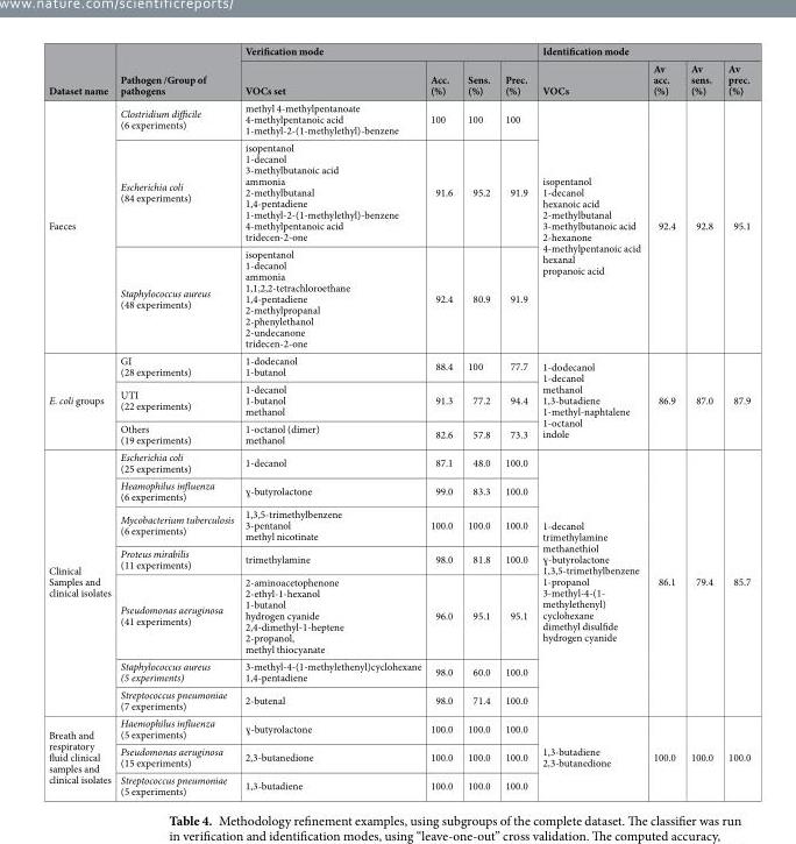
<table><thead><tr><td rowspan="2">Dataset name</td><td rowspan="2">Pathogen /Group of pathogens</td><td colspan="4">Verification mode</td><td colspan="4">Identification mode</td></tr><tr><td>VOCs set</td><td>Acc. (%)</td><td>Sens. (%)</td><td>Prec. (%)</td><td>VOCs</td><td>Av acc. (%)</td><td>Av sens. (%)</td><td>Av prec. (%)</td></tr></thead><tbody><tr><td rowspan="3">Faeces</td><td>Clostridium difficile (6 experiments)</td><td>methyl 4-methylpentanoate 4-methylpentanoic acid 1-methyl-2-(1-methylethyl)-benzene</td><td>100</td><td>100</td><td>100</td><td rowspan="3">isopentanol 1-decanol hexanoic acid 2-methylbutanal 3-methylbutanoic acid 2-hexanone 4-methylpentanoic acid hexanal propanoic acid</td><td rowspan="3">92.4</td><td rowspan="3">92.8</td><td rowspan="3">95.1</td></tr><tr><td>Escherichia coli (84 experiments)</td><td>isopentanol 1-decanol 3-methylbutanoic acid ammonia 2-methylbutanal 1,4-pentadiene 1-methyl-2-(1-methylethyl)-benzene 4-methylpentanoic acid tridecen-2-one</td><td>91.6</td><td>95.2</td><td>91.9</td></tr><tr><td>Staphylococcus aureus (48 experiments)</td><td>isopentanol 1-decanol ammonia 1,1,2,2-tetrachloroethane 1,4-pentadiene 2-methylpropanal 2-phenylethanol 2-undecanone tridecen-2-one</td><td>92.4</td><td>80.9</td><td>91.9</td></tr><tr><td rowspan="3">E. coli groups</td><td>GI (28 experiments)</td><td>1-dodecanol 1-butanol</td><td>88.4</td><td>100</td><td>77.7</td><td rowspan="3">1-dodecanol 1-decanol methanol 1,3-butadiene 1-methyl-naphtalene 1-octanol indole</td><td rowspan="3">86.9</td><td rowspan="3">87.0</td><td rowspan="3">87.9</td></tr><tr><td>UTI (22 experiments)</td><td>1-decanol 1-butanol methanol</td><td>91.3</td><td>77.2</td><td>94.4</td></tr><tr><td>Others (19 experiments)</td><td>1-octanol (dimer) methanol</td><td>82.6</td><td>57.8</td><td>73.3</td></tr><tr><td rowspan="7">Clinical Samples and clinical isolates</td><td>Escherichia coli (25 experiments)</td><td>1-decanol</td><td>87.1</td><td>48.0</td><td>100.0</td><td rowspan="7">1-decanol trimethylamine methanethiol ɣ-butyrolactone 1,3,5-trimethylbenzene 1-propanol 3-methyl-4-(1- methylethenyl) cyclohexane dimethyl disulfide hydrogen cyanide</td><td rowspan="7">86.1</td><td rowspan="7">79.4</td><td rowspan="7">85.7</td></tr><tr><td>Heamophilus influenza (6 experiments)</td><td>ɣ-butyrolactone</td><td>99.0</td><td>83.3</td><td>100.0</td></tr><tr><td>Mycobacterium tuberculosis (6 experiments)</td><td>1,3,5-trimethylbenzene 3-pentanol methyl nicotinate</td><td>100.0</td><td>100.0</td><td>100.0</td></tr><tr><td>Proteus mirabilis (11 experiments)</td><td>trimethylamine</td><td>98.0</td><td>81.8</td><td>100.0</td></tr><tr><td>Pseudomonas aeruginosa (41 experiments)</td><td>2-aminoacetophenone 2-ethyl-1-hexanol 1-butanol hydrogen cyanide 2,4-dimethyl-1-heptene 2-propanol, methyl thiocyanate</td><td>96.0</td><td>95.1</td><td>95.1</td></tr><tr><td>Staphylococcus aureus (5 experiments)</td><td>3-methyl-4-(1-methylethenyl)cyclohexane 1,4-pentadiene</td><td>98.0</td><td>60.0</td><td>100.0</td></tr><tr><td>Streptococcus pneumoniae (7 experiments)</td><td>2-butenal</td><td>98.0</td><td>71.4</td><td>100.0</td></tr><tr><td rowspan="3">Breath and respiratory fluid clinical samples and clinical isolates</td><td>Haemophilus influenza (5 experiments)</td><td>ɣ-butyrolactone</td><td>100.0</td><td>100.0</td><td>100.0</td><td rowspan="3">1,3-butadiene 2,3-butanedione</td><td rowspan="3">100.0</td><td rowspan="3">100.0</td><td rowspan="3">100.0</td></tr><tr><td>Pseudomonas aeruginosa (15 experiments)</td><td>2,3-butanedione</td><td>100.0</td><td>100.0</td><td>100.0</td></tr><tr><td>Streptococcus pneumoniae (5 experiments)</td><td>1,3-butadiene</td><td>100.0</td><td>100.0</td><td>100.0</td></tr></tbody></table>